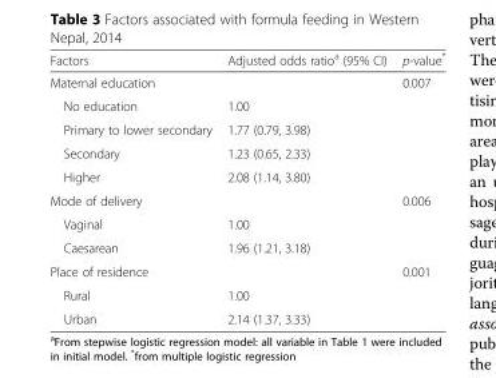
<table><thead><tr><td>Factors</td><td>Adjusted odds ratio<sup>a</sup> (95% CI)</td><td>p-value*</td></tr></thead><tbody><tr><td>Maternal education</td><td></td><td>0.007</td></tr><tr><td>No education</td><td>1.00</td><td></td></tr><tr><td>Primary to lower secondary</td><td>1.77 (0.79, 3.98)</td><td></td></tr><tr><td>Secondary</td><td>1.23 (0.65, 2.33)</td><td></td></tr><tr><td>Higher</td><td>2.08 (1.14, 3.80)</td><td></td></tr><tr><td>Mode of delivery</td><td></td><td>0.006</td></tr><tr><td>Vaginal</td><td>1.00</td><td></td></tr><tr><td>Caesarean</td><td>1.96 (1.21, 3.18)</td><td></td></tr><tr><td>Place of residence</td><td></td><td>0.001</td></tr><tr><td>Rural</td><td>1.00</td><td></td></tr><tr><td>Urban</td><td>2.14 (1.37, 3.33)</td><td></td></tr></tbody></table>